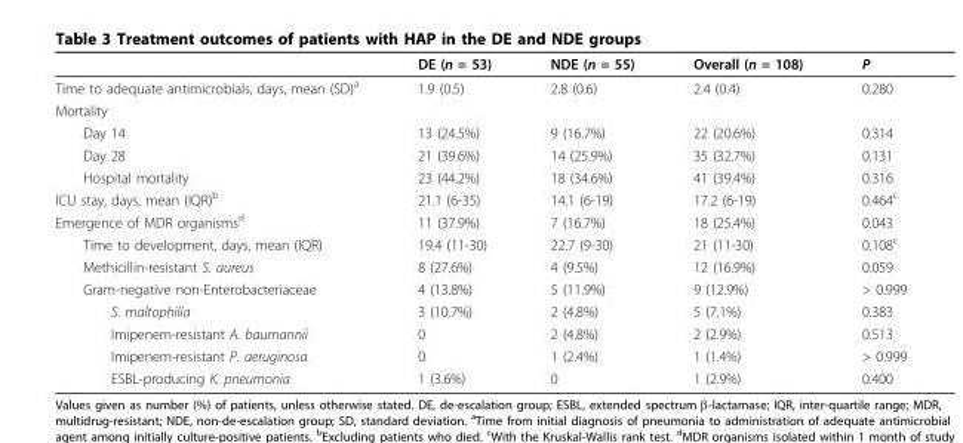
<table><thead><tr><td></td><td>DE (n = 53)</td><td>NDE (n = 55)</td><td>Overall (n = 108)</td><td>P</td></tr></thead><tbody><tr><td>Time to adequate antimicrobials, days, mean (SD)<sup>a</sup></td><td>1.9 (0.5)</td><td>2.8 (0.6)</td><td>2.4 (0.4)</td><td>0.280</td></tr><tr><td colspan="5">Mortality</td></tr><tr><td>Day 14</td><td>13 (24.5%)</td><td>9 (16.7%)</td><td>22 (20.6%)</td><td>0.314</td></tr><tr><td>Day 28</td><td>21 (39.6%)</td><td>14 (25.9%)</td><td>35 (32.7%)</td><td>0.131</td></tr><tr><td>Hospital mortality</td><td>23 (44.2%)</td><td>18 (34.6%)</td><td>41 (39.4%)</td><td>0.316</td></tr><tr><td>ICU stay, days, mean (IQR)<sup>b</sup></td><td>21.1 (6-35)</td><td>14.1 (6-19)</td><td>17.2 (6-19)</td><td>0.464<sup>c</sup></td></tr><tr><td>Emergence of MDR organisms<sup>d</sup></td><td>11 (37.9%)</td><td>7 (16.7%)</td><td>18 (25.4%)</td><td>0.043</td></tr><tr><td>Time to development, days, mean (IQR)</td><td>19.4 (11-30)</td><td>22.7 (9-30)</td><td>21 (11-30)</td><td>0.108<sup>c</sup></td></tr><tr><td>Methicillin-resistant S. aureus</td><td>8 (27.6%)</td><td>4 (9.5%)</td><td>12 (16.9%)</td><td>0.059</td></tr><tr><td>Gram-negative non-Enterobacteriaceae</td><td>4 (13.8%)</td><td>5 (11.9%)</td><td>9 (12.9%)</td><td>&gt; 0.999</td></tr><tr><td>S. maltophilia</td><td>3 (10.7%)</td><td>2 (4.8%)</td><td>5 (7.1%)</td><td>0.383</td></tr><tr><td>Imipenem-resistant A. baumannii</td><td>0</td><td>2 (4.8%)</td><td>2 (2.9%)</td><td>0.513</td></tr><tr><td>Imipenem-resistant P. aeruginosa</td><td>0</td><td>1 (2.4%)</td><td>1 (1.4%)</td><td>&gt; 0.999</td></tr><tr><td>ESBL-producing K. pneumonia</td><td>1 (3.6%)</td><td>0</td><td>1 (2.9%)</td><td>0.400</td></tr></tbody></table>